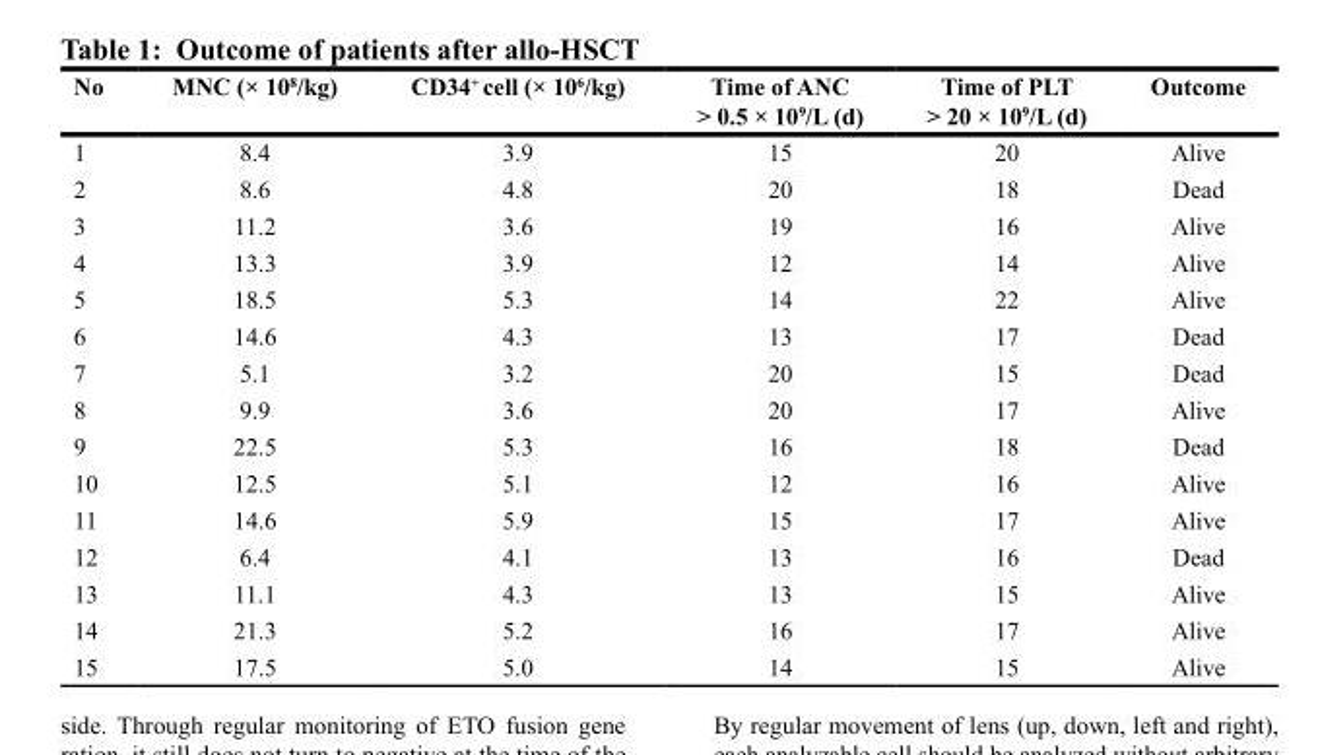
<table><thead><tr><td>No</td><td>MNC (× 10<sup>8</sup>/kg)</td><td>CD34<sup>+</sup> cell (× 10<sup>6</sup>/kg)</td><td>Time of ANC &gt; 0.5 × 10<sup>9</sup>/L (d)</td><td>Time of PLT &gt; 20 × 10<sup>9</sup>/L (d)</td><td>Outcome</td></tr></thead><tbody><tr><td>1</td><td>8.4</td><td>3.9</td><td>15</td><td>20</td><td>Alive</td></tr><tr><td>2</td><td>8.6</td><td>4.8</td><td>20</td><td>18</td><td>Dead</td></tr><tr><td>3</td><td>11.2</td><td>3.6</td><td>19</td><td>16</td><td>Alive</td></tr><tr><td>4</td><td>13.3</td><td>3.9</td><td>12</td><td>14</td><td>Alive</td></tr><tr><td>5</td><td>18.5</td><td>5.3</td><td>14</td><td>22</td><td>Alive</td></tr><tr><td>6</td><td>14.6</td><td>4.3</td><td>13</td><td>17</td><td>Dead</td></tr><tr><td>7</td><td>5.1</td><td>3.2</td><td>20</td><td>15</td><td>Dead</td></tr><tr><td>8</td><td>9.9</td><td>3.6</td><td>20</td><td>17</td><td>Alive</td></tr><tr><td>9</td><td>22.5</td><td>5.3</td><td>16</td><td>18</td><td>Dead</td></tr><tr><td>10</td><td>12.5</td><td>5.1</td><td>12</td><td>16</td><td>Alive</td></tr><tr><td>11</td><td>14.6</td><td>5.9</td><td>15</td><td>17</td><td>Alive</td></tr><tr><td>12</td><td>6.4</td><td>4.1</td><td>13</td><td>16</td><td>Dead</td></tr><tr><td>13</td><td>11.1</td><td>4.3</td><td>13</td><td>15</td><td>Alive</td></tr><tr><td>14</td><td>21.3</td><td>5.2</td><td>16</td><td>17</td><td>Alive</td></tr><tr><td>15</td><td>17.5</td><td>5.0</td><td>14</td><td>15</td><td>Alive</td></tr></tbody></table>